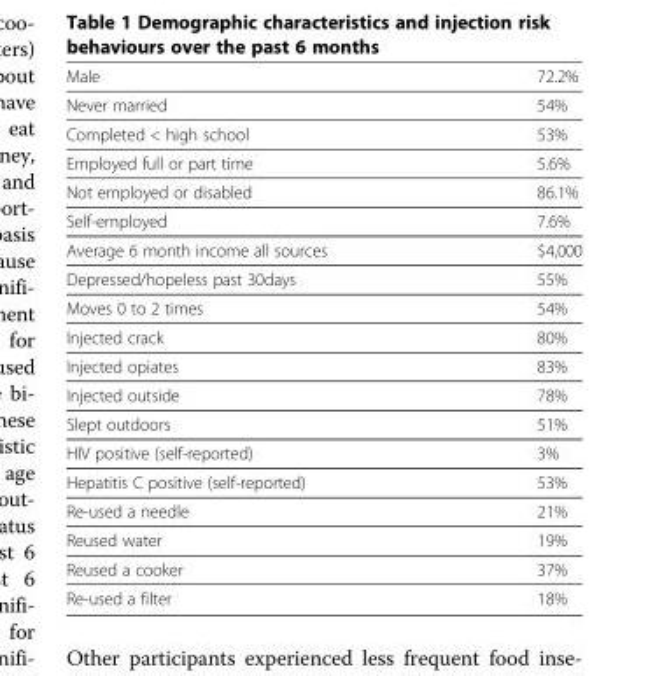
<table><tbody><tr><td>Male</td><td>72.2%</td></tr><tr><td>Never married</td><td>54%</td></tr><tr><td>Completed &lt; high school</td><td>53%</td></tr><tr><td>Employed full or part time</td><td>5.6%</td></tr><tr><td>Not employed or disabled</td><td>86.1%</td></tr><tr><td>Self-employed</td><td>7.6%</td></tr><tr><td>Average 6 month income all sources</td><td>$4,000</td></tr><tr><td>Depressed/hopeless past 30days</td><td>55%</td></tr><tr><td>Moves 0 to 2 times</td><td>54%</td></tr><tr><td>Injected crack</td><td>80%</td></tr><tr><td>Injected opiates</td><td>83%</td></tr><tr><td>Injected outside</td><td>78%</td></tr><tr><td>Slept outdoors</td><td>51%</td></tr><tr><td>HIV positive (self-reported)</td><td>3%</td></tr><tr><td>Hepatitis C positive (self-reported)</td><td>53%</td></tr><tr><td>Re-used a needle</td><td>21%</td></tr><tr><td>Reused water</td><td>19%</td></tr><tr><td>Reused a cooker</td><td>37%</td></tr><tr><td>Re-used a filter</td><td>18%</td></tr></tbody></table>